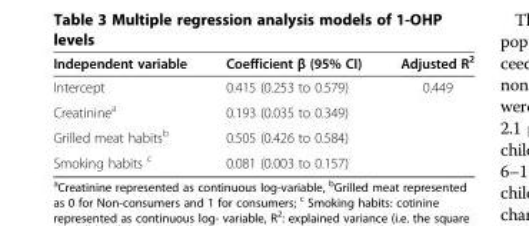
<table><thead><tr><td>Independent variable</td><td>Coefficient β (95% CI)</td><td>Adjusted R<sup>2</sup></td></tr></thead><tbody><tr><td>Intercept</td><td>0.415 (0.253 to 0.579)</td><td>0.449</td></tr><tr><td>Creatinine<sup>a</sup></td><td>0.193 (0.035 to 0.349)</td><td></td></tr><tr><td>Grilled meat habits<sup>b</sup></td><td>0.505 (0.426 to 0.584)</td><td></td></tr><tr><td>Smoking habits <sup>c</sup></td><td>0.081 (0.003 to 0.157)</td><td></td></tr></tbody></table>